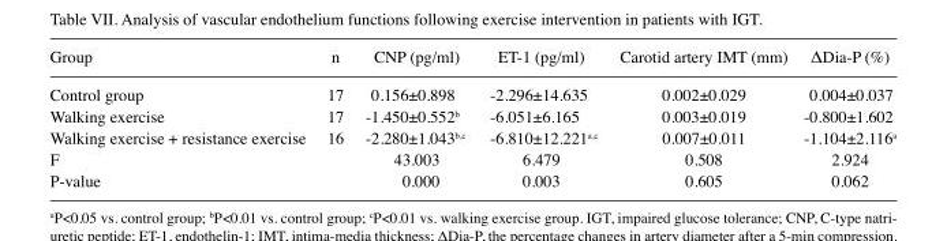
<table><thead><tr><td>Group</td><td>n</td><td>CNP (pg/ml)</td><td>ET-1 (pg/ml)</td><td>Carotid artery IMT (mm)</td><td>ΔDia-P (%)</td></tr></thead><tbody><tr><td>Control group</td><td>17</td><td>0.156±0.898</td><td>-2.296±14.635</td><td>0.002±0.029</td><td>0.004±0.037</td></tr><tr><td>Walking exercise</td><td>17</td><td>-1.450±0.552<sup>b</sup></td><td>-6.051±6.165</td><td>0.003±0.019</td><td>-0.800±1.602</td></tr><tr><td>Walking exercise + resistance exercise</td><td>16</td><td>-2.280±1.043<sup>b,c</sup></td><td>-6.810±12.221<sup>a,c</sup></td><td>0.007±0.011</td><td>-1.104±2.116<sup>a</sup></td></tr><tr><td>F</td><td></td><td>43.003</td><td>6.479</td><td>0.508</td><td>2.924</td></tr><tr><td>P-value</td><td></td><td>0.000</td><td>0.003</td><td>0.605</td><td>0.062</td></tr></tbody></table>